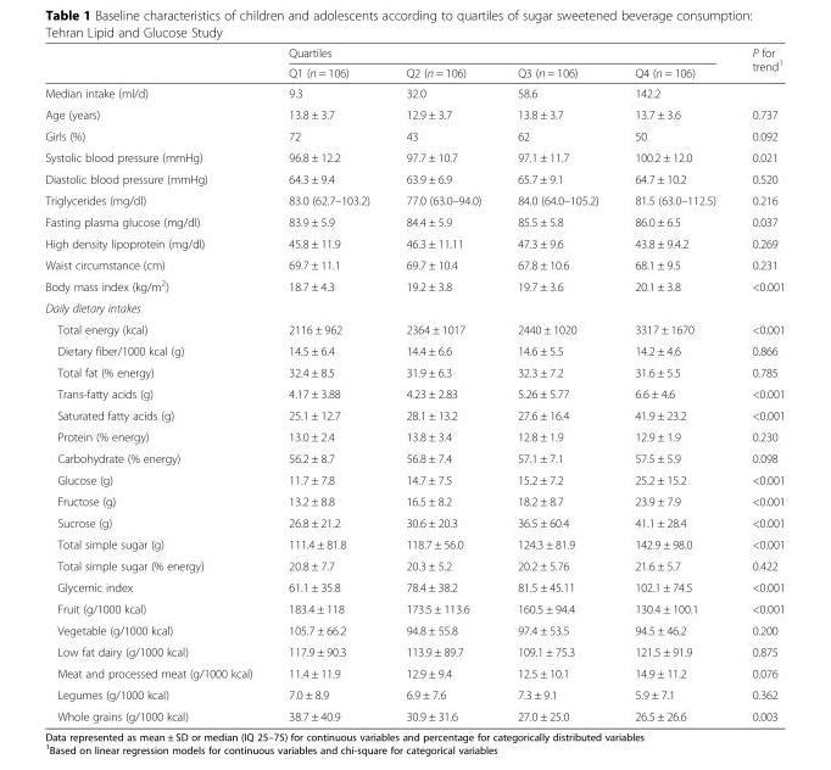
<table><thead><tr><td rowspan="2"></td><td colspan="4">Quartiles</td><td rowspan="2">P for trend<sup>1</sup></td></tr><tr><td>Q1 (n = 106)</td><td>Q2 (n = 106)</td><td>Q3 (n = 106)</td><td>Q4 (n = 106)</td></tr></thead><tbody><tr><td>Median intake (ml/d)</td><td>9.3</td><td>32.0</td><td>58.6</td><td>142.2</td><td></td></tr><tr><td>Age (years)</td><td>13.8 ± 3.7</td><td>12.9 ± 3.7</td><td>13.8 ± 3.7</td><td>13.7 ± 3.6</td><td>0.737</td></tr><tr><td>Girls (%)</td><td>72</td><td>43</td><td>62</td><td>50</td><td>0.092</td></tr><tr><td>Systolic blood pressure (mmHg)</td><td>96.8 ± 12.2</td><td>97.7 ± 10.7</td><td>97.1 ± 11.7</td><td>100.2 ± 12.0</td><td>0.021</td></tr><tr><td>Diastolic blood pressure (mmHg)</td><td>64.3 ± 9.4</td><td>63.9 ± 6.9</td><td>65.7 ± 9.1</td><td>64.7 ± 10.2</td><td>0.520</td></tr><tr><td>Triglycerides (mg/dl)</td><td>83.0 (62.7–103.2)</td><td>77.0 (63.0–94.0)</td><td>84.0 (64.0–105.2)</td><td>81.5 (63.0–112.5)</td><td>0.216</td></tr><tr><td>Fasting plasma glucose (mg/dl)</td><td>83.9 ± 5.9</td><td>84.4 ± 5.9</td><td>85.5 ± 5.8</td><td>86.0 ± 6.5</td><td>0.037</td></tr><tr><td>High density lipoprotein (mg/dl)</td><td>45.8 ± 11.9</td><td>46.3 ± 11.11</td><td>47.3 ± 9.6</td><td>43.8 ± 9.4.2</td><td>0.269</td></tr><tr><td>Waist circumstance (cm)</td><td>69.7 ± 11.1</td><td>69.7 ± 10.4</td><td>67.8 ± 10.6</td><td>68.1 ± 9.5</td><td>0.231</td></tr><tr><td>Body mass index (kg/m<sup>2</sup>)</td><td>18.7 ± 4.3</td><td>19.2 ± 3.8</td><td>19.7 ± 3.6</td><td>20.1 ± 3.8</td><td>&lt;0.001</td></tr><tr><td colspan="6">Daily dietary intakes</td></tr><tr><td>Total energy (kcal)</td><td>2116 ± 962</td><td>2364 ± 1017</td><td>2440 ± 1020</td><td>3317 ± 1670</td><td>&lt;0.001</td></tr><tr><td>Dietary fiber/1000 kcal (g)</td><td>14.5 ± 6.4</td><td>14.4 ± 6.6</td><td>14.6 ± 5.5</td><td>14.2 ± 4.6</td><td>0.866</td></tr><tr><td>Total fat (% energy)</td><td>32.4 ± 8.5</td><td>31.9 ± 6.3</td><td>32.3 ± 7.2</td><td>31.6 ± 5.5</td><td>0.785</td></tr><tr><td>Trans-fatty acids (g)</td><td>4.17 ± 3.88</td><td>4.23 ± 2.83</td><td>5.26 ± 5.77</td><td>6.6 ± 4.6</td><td>&lt;0.001</td></tr><tr><td>Saturated fatty acids (g)</td><td>25.1 ± 12.7</td><td>28.1 ± 13.2</td><td>27.6 ± 16.4</td><td>41.9 ± 23.2</td><td>&lt;0.001</td></tr><tr><td>Protein (% energy)</td><td>13.0 ± 2.4</td><td>13.8 ± 3.4</td><td>12.8 ± 1.9</td><td>12.9 ± 1.9</td><td>0.230</td></tr><tr><td>Carbohydrate (% energy)</td><td>56.2 ± 8.7</td><td>56.8 ± 7.4</td><td>57.1 ± 7.1</td><td>57.5 ± 5.9</td><td>0.098</td></tr><tr><td>Glucose (g)</td><td>11.7 ± 7.8</td><td>14.7 ± 7.5</td><td>15.2 ± 7.2</td><td>25.2 ± 15.2</td><td>&lt;0.001</td></tr><tr><td>Fructose (g)</td><td>13.2 ± 8.8</td><td>16.5 ± 8.2</td><td>18.2 ± 8.7</td><td>23.9 ± 7.9</td><td>&lt;0.001</td></tr><tr><td>Sucrose (g)</td><td>26.8 ± 21.2</td><td>30.6 ± 20.3</td><td>36.5 ± 60.4</td><td>41.1 ± 28.4</td><td>&lt;0.001</td></tr><tr><td>Total simple sugar (g)</td><td>111.4 ± 81.8</td><td>118.7 ± 56.0</td><td>124.3 ± 81.9</td><td>142.9 ± 98.0</td><td>&lt;0.001</td></tr><tr><td>Total simple sugar (% energy)</td><td>20.8 ± 7.7</td><td>20.3 ± 5.2</td><td>20.2 ± 5.76</td><td>21.6 ± 5.7</td><td>0.422</td></tr><tr><td>Glycemic index</td><td>61.1 ± 35.8</td><td>78.4 ± 38.2</td><td>81.5 ± 45.11</td><td>102.1 ± 74.5</td><td>&lt;0.001</td></tr><tr><td>Fruit (g/1000 kcal)</td><td>183.4 ± 118</td><td>173.5 ± 113.6</td><td>160.5 ± 94.4</td><td>130.4 ± 100.1</td><td>&lt;0.001</td></tr><tr><td>Vegetable (g/1000 kcal)</td><td>105.7 ± 66.2</td><td>94.8 ± 55.8</td><td>97.4 ± 53.5</td><td>94.5 ± 46.2</td><td>0.200</td></tr><tr><td>Low fat dairy (g/1000 kcal)</td><td>117.9 ± 90.3</td><td>113.9 ± 89.7</td><td>109.1 ± 75.3</td><td>121.5 ± 91.9</td><td>0.875</td></tr><tr><td>Meat and processed meat (g/1000 kcal)</td><td>11.4 ± 11.9</td><td>12.9 ± 9.4</td><td>12.5 ± 10.1</td><td>14.9 ± 11.2</td><td>0.076</td></tr><tr><td>Legumes (g/1000 kcal)</td><td>7.0 ± 8.9</td><td>6.9 ± 7.6</td><td>7.3 ± 9.1</td><td>5.9 ± 7.1</td><td>0.362</td></tr><tr><td>Whole grains (g/1000 kcal)</td><td>38.7 ± 40.9</td><td>30.9 ± 31.6</td><td>27.0 ± 25.0</td><td>26.5 ± 26.6</td><td>0.003</td></tr></tbody></table>